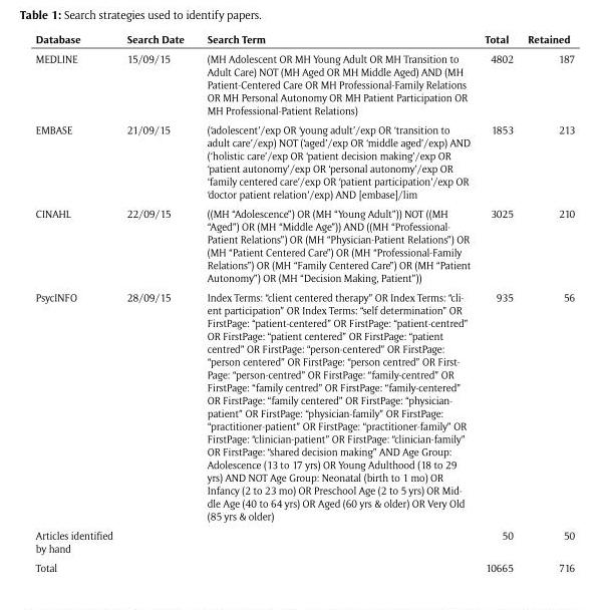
<table><thead><tr><td>Database</td><td>Search Date</td><td>Search Term</td><td>Total</td><td>Retained</td></tr></thead><tbody><tr><td>MEDLINE</td><td>15/09/15</td><td>(MH Adolescent OR MH Young Adult OR MH Transition to Adult Care) NOT (MH Aged OR MH Middle Aged) AND (MH Patient-Centered Care OR MH Professional-Family Relations OR MH Personal Autonomy OR MH Patient Participation OR MH Professional-Patient Relations)</td><td>4802</td><td>187</td></tr><tr><td>EMBASE</td><td>21/09/15</td><td>(‘adolescent’/exp OR ‘young adult’/exp OR ‘transition to adult care’/exp) NOT (‘aged’/exp OR ‘middle aged’/exp) AND (‘holistic care’/exp OR ‘patient decision making’/exp OR ‘patient autonomy’/exp OR ‘personal autonomy’/exp OR ‘family centered care’/exp OR ‘patient participation’/exp OR ‘doctor patient relation’/exp) AND [embase]/lim</td><td>1853</td><td>213</td></tr><tr><td>CINAHL</td><td>22/09/15</td><td>((MH “Adolescence”) OR (MH “Young Adult”)) NOT ((MH “Aged”) OR (MH “Middle Age”)) AND ((MH “Professional- Patient Relations”) OR (MH “Physician-Patient Relations”) OR (MH “Patient Centered Care”) OR (MH “Professional-Family Relations”) OR (MH “Family Centered Care”) OR (MH “Patient Autonomy”) OR (MH “Decision Making, Patient”))</td><td>3025</td><td>210</td></tr><tr><td>PsycINFO</td><td>28/09/15</td><td>Index Terms: “client centered therapy” OR Index Terms: “cli- ent participation” OR Index Terms: “self determination” OR FirstPage: “patient-centered” OR FirstPage: “patient-centred” OR FirstPage: “patient centered” OR FirstPage: “patient centred” OR FirstPage: “person-centered” OR FirstPage: “person centered” OR FirstPage: “person centred” OR First- Page: “person-centred” OR FirstPage: “family-centred” OR FirstPage: “family centred” OR FirstPage: “family-centered” OR FirstPage: “family centered” OR FirstPage: “physician- patient” OR FirstPage: “physician-family” OR FirstPage: “practitioner-patient” OR FirstPage: “practitioner-family” OR FirstPage: “clinician-patient” OR FirstPage: “clinician-family” OR FirstPage: “shared decision making” AND Age Group: Adolescence (13 to 17 yrs) OR Young Adulthood (18 to 29 yrs) AND NOT Age Group: Neonatal (birth to 1 mo) OR Infancy (2 to 23 mo) OR Preschool Age (2 to 5 yrs) OR Mid- dle Age (40 to 64 yrs) OR Aged (60 yrs &amp; older) OR Very Old (85 yrs &amp; older)</td><td>935</td><td>56</td></tr><tr><td>Articles identified by hand</td><td></td><td></td><td>50</td><td>50</td></tr><tr><td>Total</td><td></td><td></td><td>10665</td><td>716</td></tr></tbody></table>